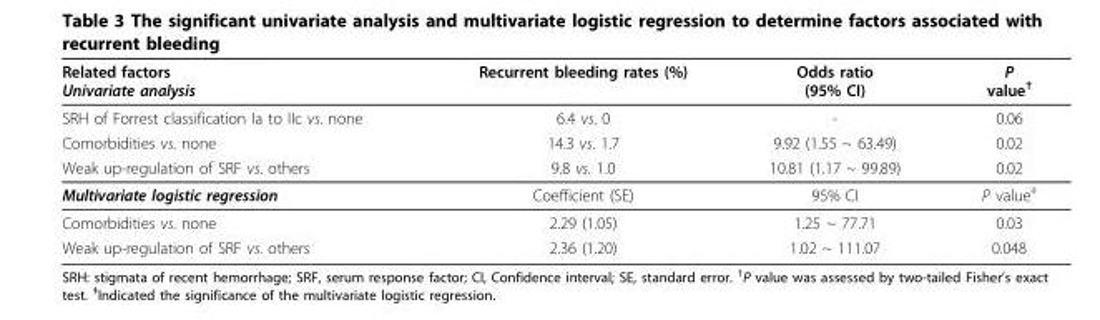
<table><thead><tr><td>Related factors Univariate analysis</td><td>Recurrent bleeding rates (%)</td><td>Odds ratio (95% CI)</td><td>P value<sup>†</sup></td></tr></thead><tbody><tr><td>SRH of Forrest classification Ia to IIc vs. none</td><td>6.4 vs. 0</td><td>-</td><td>0.06</td></tr><tr><td>Comorbidities vs. none</td><td>14.3 vs. 1.7</td><td>9.92 (1.55 ~ 63.49)</td><td>0.02</td></tr><tr><td>Weak up-regulation of SRF vs. others</td><td>9.8 vs. 1.0</td><td>10.81 (1.17 ~ 99.89)</td><td>0.02</td></tr><tr><td>Multivariate logistic regression</td><td>Coefficient (SE)</td><td>95% CI</td><td>P value<sup>‡</sup></td></tr><tr><td>Comorbidities vs. none</td><td>2.29 (1.05)</td><td>1.25 ~ 77.71</td><td>0.03</td></tr><tr><td>Weak up-regulation of SRF vs. others</td><td>2.36 (1.20)</td><td>1.02 ~ 111.07</td><td>0.048</td></tr></tbody></table>